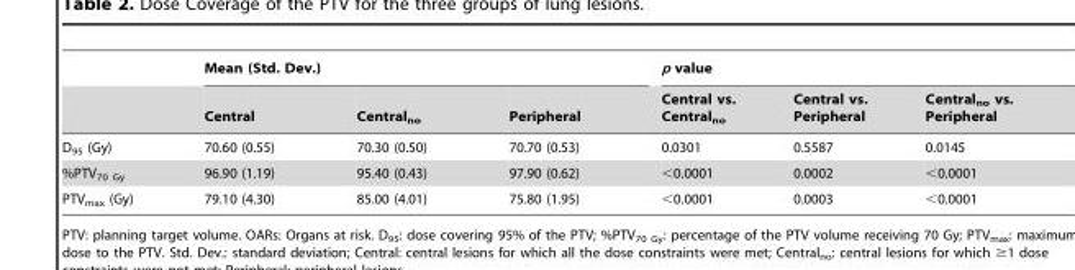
<table><thead><tr><td rowspan="2"></td><td colspan="3">Mean (Std. Dev.)</td><td colspan="3">p value</td></tr><tr><td>Central</td><td>Central<sub>no</sub></td><td>Peripheral</td><td>Central vs. Central<sub>no</sub></td><td>Central vs. Peripheral</td><td>Central<sub>no</sub> vs. Peripheral</td></tr></thead><tbody><tr><td>D<sub>95</sub> (Gy)</td><td>70.60 (0.55)</td><td>70.30 (0.50)</td><td>70.70 (0.53)</td><td>0.0301</td><td>0.5587</td><td>0.0145</td></tr><tr><td>%PTV<sub>70 Gy</sub></td><td>96.90 (1.19)</td><td>95.40 (0.43)</td><td>97.90 (0.62)</td><td>&lt;0.0001</td><td>0.0002</td><td>&lt;0.0001</td></tr><tr><td>PTV<sub>max</sub> (Gy)</td><td>79.10 (4.30)</td><td>85.00 (4.01)</td><td>75.80 (1.95)</td><td>&lt;0.0001</td><td>0.0003</td><td>&lt;0.0001</td></tr></tbody></table>